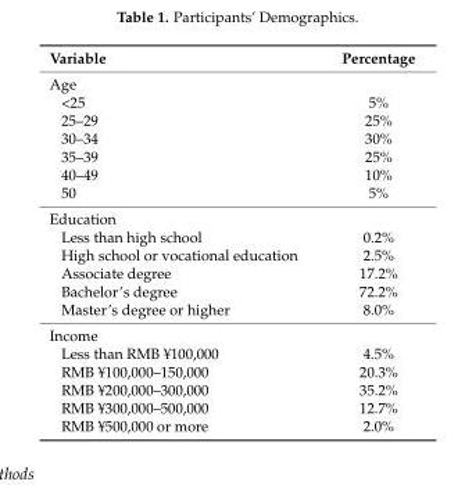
<table><thead><tr><td>Variable</td><td>Percentage</td></tr></thead><tbody><tr><td colspan="2">Age</td></tr><tr><td>&lt;25</td><td>5%</td></tr><tr><td>25–29</td><td>25%</td></tr><tr><td>30–34</td><td>30%</td></tr><tr><td>35–39</td><td>25%</td></tr><tr><td>40–49</td><td>10%</td></tr><tr><td>50</td><td>5%</td></tr><tr><td colspan="2">Education</td></tr><tr><td>Less than high school</td><td>0.2%</td></tr><tr><td>High school or vocational education</td><td>2.5%</td></tr><tr><td>Associate degree</td><td>17.2%</td></tr><tr><td>Bachelor’s degree</td><td>72.2%</td></tr><tr><td>Master’s degree or higher</td><td>8.0%</td></tr><tr><td colspan="2">Income</td></tr><tr><td>Less than RMB ¥100,000</td><td>4.5%</td></tr><tr><td>RMB ¥100,000–150,000</td><td>20.3%</td></tr><tr><td>RMB ¥200,000–300,000</td><td>35.2%</td></tr><tr><td>RMB ¥300,000–500,000</td><td>12.7%</td></tr><tr><td>RMB ¥500,000 or more</td><td>2.0%</td></tr></tbody></table>